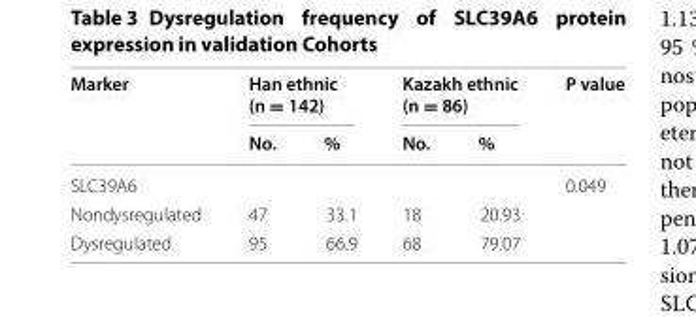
<table><thead><tr><td rowspan="2">Marker</td><td colspan="2">Han ethnic (n = 142)</td><td colspan="2">Kazakh ethnic (n = 86)</td><td rowspan="2">P value</td></tr><tr><td>No.</td><td>%</td><td>No.</td><td>%</td></tr></thead><tbody><tr><td>SLC39A6</td><td></td><td></td><td></td><td></td><td>0.049</td></tr><tr><td>Nondysregulated</td><td>47</td><td>33.1</td><td>18</td><td>20.93</td><td></td></tr><tr><td>Dysregulated</td><td>95</td><td>66.9</td><td>68</td><td>79.07</td><td></td></tr></tbody></table>